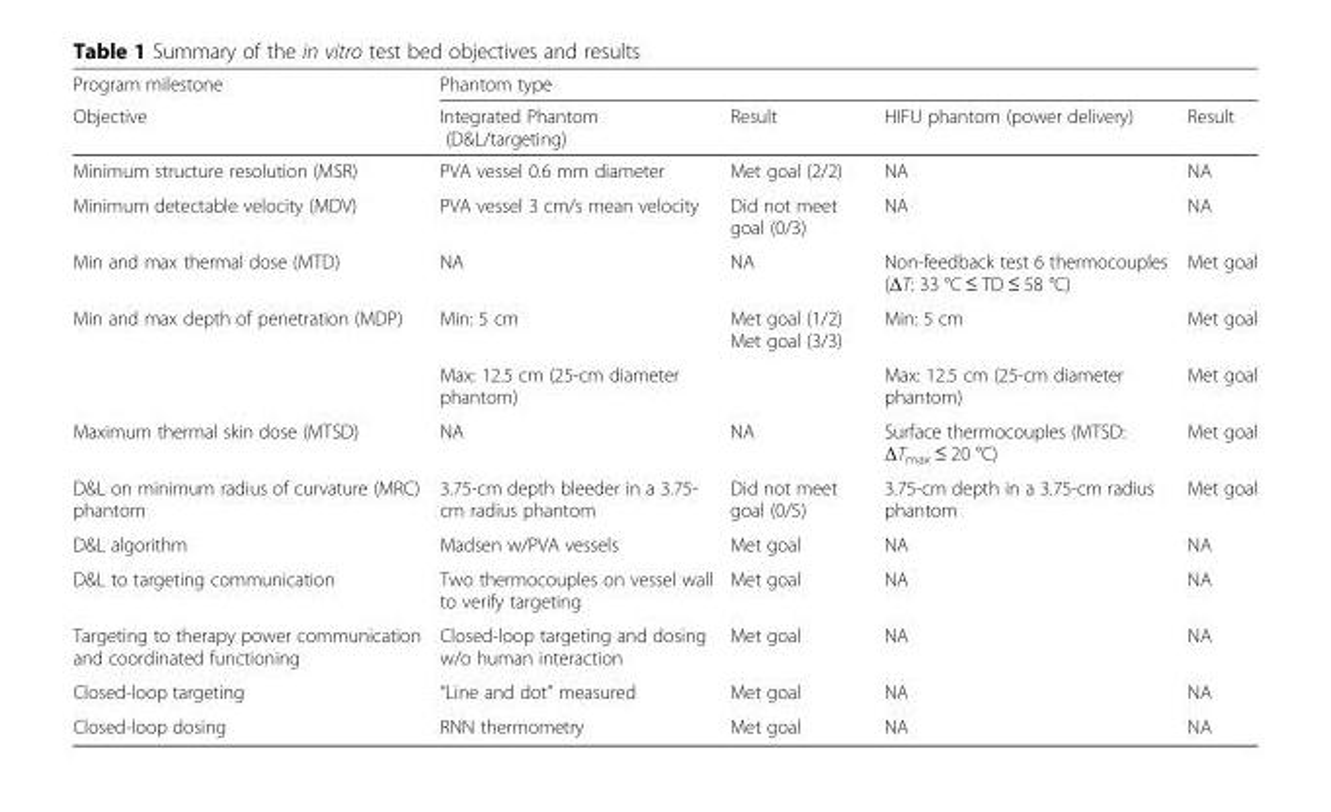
<table><thead><tr><td rowspan="2">Program milestone Objective</td><td colspan="4">Phantom type</td></tr><tr><td>Integrated Phantom (D&amp;L/targeting)</td><td>Result</td><td>HIFU phantom (power delivery)</td><td>Result</td></tr></thead><tbody><tr><td>Minimum structure resolution (MSR)</td><td>PVA vessel 0.6 mm diameter</td><td>Met goal (2/2)</td><td>NA</td><td>NA</td></tr><tr><td>Minimum detectable velocity (MDV)</td><td>PVA vessel 3 cm/s mean velocity</td><td>Did not meet goal (0/3)</td><td>NA</td><td>NA</td></tr><tr><td>Min and max thermal dose (MTD)</td><td>NA</td><td>NA</td><td>Non-feedback test 6 thermocouples (ΔT: 33 °C ≤ TD ≤ 58 °C)</td><td>Met goal</td></tr><tr><td rowspan="2">Min and max depth of penetration (MDP)</td><td>Min: 5 cm</td><td>Met goal (1/2) Met goal (3/3)</td><td>Min: 5 cm</td><td>Met goal</td></tr><tr><td>Max: 12.5 cm (25-cm diameter phantom)</td><td></td><td>Max: 12.5 cm (25-cm diameter phantom)</td><td>Met goal</td></tr><tr><td>Maximum thermal skin dose (MTSD)</td><td>NA</td><td>NA</td><td>Surface thermocouples (MTSD: ΔT<sub>max</sub> ≤ 20 °C)</td><td>Met goal</td></tr><tr><td>D&amp;L on minimum radius of curvature (MRC) phantom</td><td>3.75-cm depth bleeder in a 3.75- cm radius phantom</td><td>Did not meet goal (0/5)</td><td>3.75-cm depth in a 3.75-cm radius phantom</td><td>Met goal</td></tr><tr><td>D&amp;L algorithm</td><td>Madsen w/PVA vessels</td><td>Met goal</td><td>NA</td><td>NA</td></tr><tr><td>D&amp;L to targeting communication</td><td>Two thermocouples on vessel wall to verify targeting</td><td>Met goal</td><td>NA</td><td>NA</td></tr><tr><td>Targeting to therapy power communication and coordinated functioning</td><td>Closed-loop targeting and dosing w/o human interaction</td><td>Met goal</td><td>NA</td><td>NA</td></tr><tr><td>Closed-loop targeting</td><td>“Line and dot” measured</td><td>Met goal</td><td>NA</td><td>NA</td></tr><tr><td>Closed-loop dosing</td><td>RNN thermometry</td><td>Met goal</td><td>NA</td><td>NA</td></tr></tbody></table>